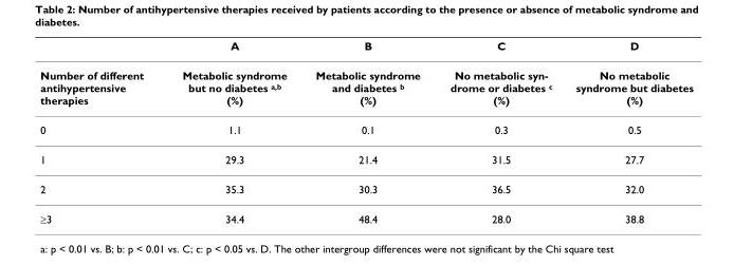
<table><thead><tr><td></td><td>A</td><td>B</td><td>C</td><td>D</td></tr></thead><tbody><tr><td>Number of different antihypertensive therapies</td><td>Metabolic syndrome but no diabetes <sup>a,b</sup> (%)</td><td>Metabolic syndrome and diabetes <sup>b</sup> (%)</td><td>No metabolic syn- drome or diabetes c (%)</td><td>No metabolic syndrome but diabetes (%)</td></tr><tr><td>0</td><td>1.1</td><td>0.1</td><td>0.3</td><td>0.5</td></tr><tr><td>1</td><td>29.3</td><td>21.4</td><td>31.5</td><td>27.7</td></tr><tr><td>2</td><td>35.3</td><td>30.3</td><td>36.5</td><td>32.0</td></tr><tr><td>≥3</td><td>34.4</td><td>48.4</td><td>28.0</td><td>38.8</td></tr></tbody></table>